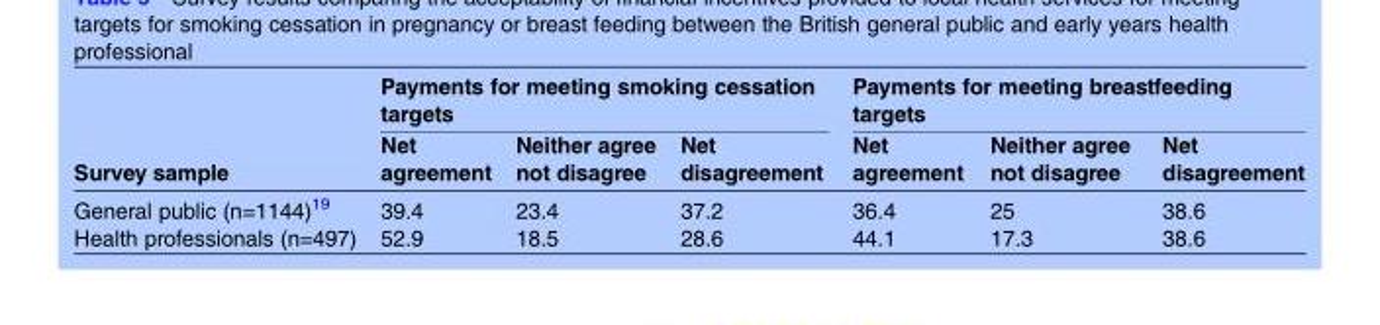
<table><thead><tr><td rowspan="2">Survey sample</td><td colspan="3">Payments for meeting smoking cessation targets</td><td colspan="3">Payments for meeting breastfeeding targets</td></tr><tr><td>Net agreement</td><td>Neither agree not disagree</td><td>Net disagreement</td><td>Net agreement</td><td>Neither agree not disagree</td><td>Net disagreement</td></tr></thead><tbody><tr><td>General public (n=1144)<sup>19</sup></td><td>39.4</td><td>23.4</td><td>37.2</td><td>36.4</td><td>25</td><td>38.6</td></tr><tr><td>Health professionals (n=497)</td><td>52.9</td><td>18.5</td><td>28.6</td><td>44.1</td><td>17.3</td><td>38.6</td></tr></tbody></table>